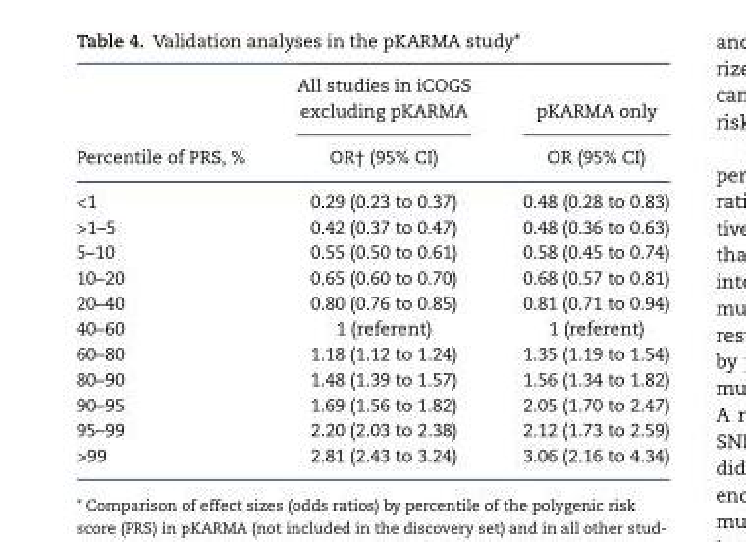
<table><thead><tr><td rowspan="2">Percentile of PRS, %</td><td rowspan="2">All studies in iCOGS excluding pKARMA OR† (95% CI)</td><td rowspan="2">pKARMA only OR (95% CI)</td></tr><tr></tr></thead><tbody><tr><td>&lt;1</td><td>0.29 (0.23 to 0.37)</td><td>0.48 (0.28 to 0.83)</td></tr><tr><td>&gt;1–5</td><td>0.42 (0.37 to 0.47)</td><td>0.48 (0.36 to 0.63)</td></tr><tr><td>5–10</td><td>0.55 (0.50 to 0.61)</td><td>0.58 (0.45 to 0.74)</td></tr><tr><td>10–20</td><td>0.65 (0.60 to 0.70)</td><td>0.68 (0.57 to 0.81)</td></tr><tr><td>20–40</td><td>0.80 (0.76 to 0.85)</td><td>0.81 (0.71 to 0.94)</td></tr><tr><td>40–60</td><td>1 (referent)</td><td>1 (referent)</td></tr><tr><td>60–80</td><td>1.18 (1.12 to 1.24)</td><td>1.35 (1.19 to 1.54)</td></tr><tr><td>80–90</td><td>1.48 (1.39 to 1.57)</td><td>1.56 (1.34 to 1.82)</td></tr><tr><td>90–95</td><td>1.69 (1.56 to 1.82)</td><td>2.05 (1.70 to 2.47)</td></tr><tr><td>95–99</td><td>2.20 (2.03 to 2.38)</td><td>2.12 (1.73 to 2.59)</td></tr><tr><td>&gt;99</td><td>2.81 (2.43 to 3.24)</td><td>3.06 (2.16 to 4.34)</td></tr></tbody></table>